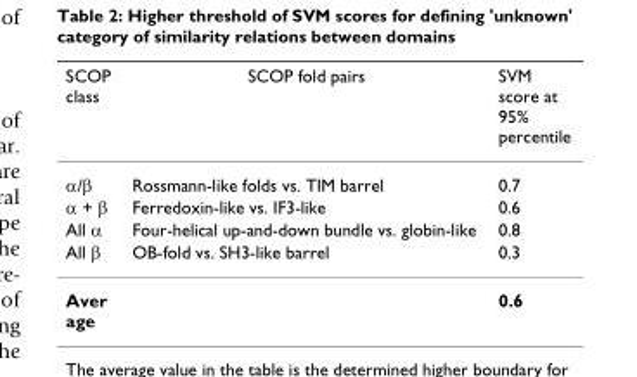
<table><thead><tr><td>SCOP class</td><td>SCOP fold pairs</td><td>SVM score at 95% percentile</td></tr></thead><tbody><tr><td>α/β</td><td>Rossmann-like folds vs. TIM barrel</td><td>0.7</td></tr><tr><td>α + β</td><td>Ferredoxin-like vs. IF3-like</td><td>0.6</td></tr><tr><td>All α</td><td>Four-helical up-and-down bundle vs. globin-like</td><td>0.8</td></tr><tr><td>All β</td><td>OB-fold vs. SH3-like barrel</td><td>0.3</td></tr><tr><td>Aver</td><td></td><td>0.6</td></tr></tbody></table>